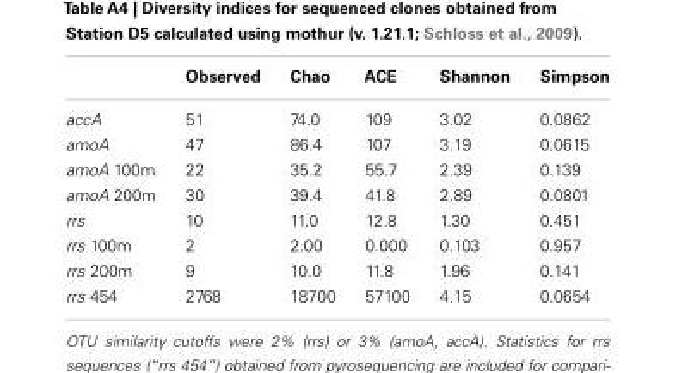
<table><thead><tr><td></td><td>Observed</td><td>Chao</td><td>ACE</td><td>Shannon</td><td>Simpson</td></tr></thead><tbody><tr><td>accA</td><td>51</td><td>74.0</td><td>109</td><td>3.02</td><td>0.0862</td></tr><tr><td>amoA</td><td>47</td><td>86.4</td><td>107</td><td>3.19</td><td>0.0615</td></tr><tr><td>amoA 100m</td><td>22</td><td>35.2</td><td>55.7</td><td>2.39</td><td>0.139</td></tr><tr><td>amoA 200m</td><td>30</td><td>39.4</td><td>41.8</td><td>2.89</td><td>0.0801</td></tr><tr><td>rrs</td><td>10</td><td>11.0</td><td>12.8</td><td>1.30</td><td>0.451</td></tr><tr><td>rrs 100m</td><td>2</td><td>2.00</td><td>0.000</td><td>0.103</td><td>0.957</td></tr><tr><td>rrs 200m</td><td>9</td><td>10.0</td><td>11.8</td><td>1.96</td><td>0.141</td></tr><tr><td>rrs 454</td><td>2768</td><td>18700</td><td>57100</td><td>4.15</td><td>0.0654</td></tr></tbody></table>